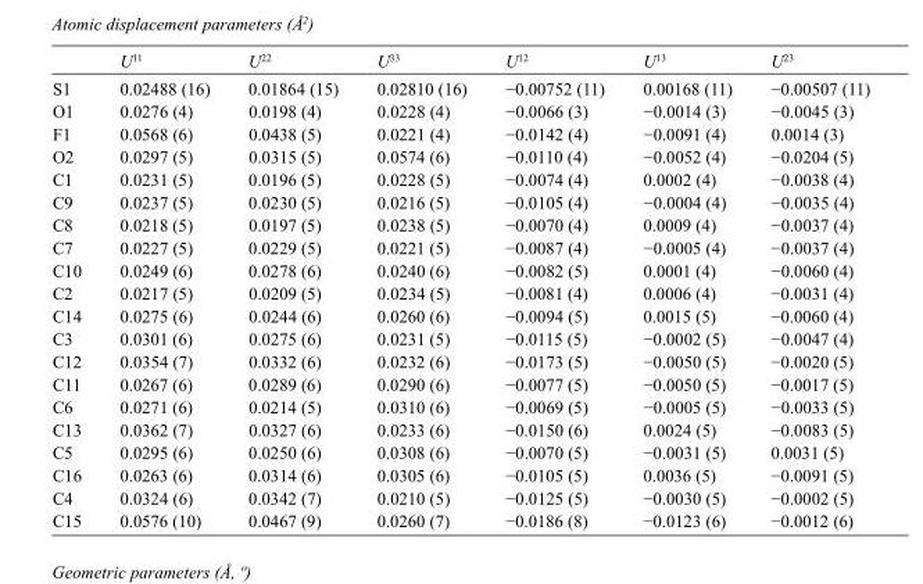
<table><thead><tr><td></td><td>U<sup>11</sup></td><td>U<sup>22</sup></td><td>U<sup>33</sup></td><td>U<sup>12</sup></td><td>U<sup>13</sup></td><td>U<sup>23</sup></td></tr></thead><tbody><tr><td>S1</td><td>0.02488 (16)</td><td>0.01864 (15)</td><td>0.02810 (16)</td><td>−0.00752 (11)</td><td>0.00168 (11)</td><td>−0.00507 (11)</td></tr><tr><td>O1</td><td>0.0276 (4)</td><td>0.0198 (4)</td><td>0.0228 (4)</td><td>−0.0066 (3)</td><td>−0.0014 (3)</td><td>−0.0045 (3)</td></tr><tr><td>F1</td><td>0.0568 (6)</td><td>0.0438 (5)</td><td>0.0221 (4)</td><td>−0.0142 (4)</td><td>−0.0091 (4)</td><td>0.0014 (3)</td></tr><tr><td>O2</td><td>0.0297 (5)</td><td>0.0315 (5)</td><td>0.0574 (6)</td><td>−0.0110 (4)</td><td>−0.0052 (4)</td><td>−0.0204 (5)</td></tr><tr><td>C1</td><td>0.0231 (5)</td><td>0.0196 (5)</td><td>0.0228 (5)</td><td>−0.0074 (4)</td><td>0.0002 (4)</td><td>−0.0038 (4)</td></tr><tr><td>C9</td><td>0.0237 (5)</td><td>0.0230 (5)</td><td>0.0216 (5)</td><td>−0.0105 (4)</td><td>−0.0004 (4)</td><td>−0.0035 (4)</td></tr><tr><td>C8</td><td>0.0218 (5)</td><td>0.0197 (5)</td><td>0.0238 (5)</td><td>−0.0070 (4)</td><td>0.0009 (4)</td><td>−0.0037 (4)</td></tr><tr><td>C7</td><td>0.0227 (5)</td><td>0.0229 (5)</td><td>0.0221 (5)</td><td>−0.0087 (4)</td><td>−0.0005 (4)</td><td>−0.0037 (4)</td></tr><tr><td>C10</td><td>0.0249 (6)</td><td>0.0278 (6)</td><td>0.0240 (6)</td><td>−0.0082 (5)</td><td>0.0001 (4)</td><td>−0.0060 (4)</td></tr><tr><td>C2</td><td>0.0217 (5)</td><td>0.0209 (5)</td><td>0.0234 (5)</td><td>−0.0081 (4)</td><td>0.0006 (4)</td><td>−0.0031 (4)</td></tr><tr><td>C14</td><td>0.0275 (6)</td><td>0.0244 (6)</td><td>0.0260 (6)</td><td>−0.0094 (5)</td><td>0.0015 (5)</td><td>−0.0060 (4)</td></tr><tr><td>C3</td><td>0.0301 (6)</td><td>0.0275 (6)</td><td>0.0231 (5)</td><td>−0.0115 (5)</td><td>−0.0002 (5)</td><td>−0.0047 (4)</td></tr><tr><td>C12</td><td>0.0354 (7)</td><td>0.0332 (6)</td><td>0.0232 (6)</td><td>−0.0173 (5)</td><td>−0.0050 (5)</td><td>−0.0020 (5)</td></tr><tr><td>C11</td><td>0.0267 (6)</td><td>0.0289 (6)</td><td>0.0290 (6)</td><td>−0.0077 (5)</td><td>−0.0050 (5)</td><td>−0.0017 (5)</td></tr><tr><td>C6</td><td>0.0271 (6)</td><td>0.0214 (5)</td><td>0.0310 (6)</td><td>−0.0069 (5)</td><td>−0.0005 (5)</td><td>−0.0033 (5)</td></tr><tr><td>C13</td><td>0.0362 (7)</td><td>0.0327 (6)</td><td>0.0233 (6)</td><td>−0.0150 (6)</td><td>0.0024 (5)</td><td>−0.0083 (5)</td></tr><tr><td>C5</td><td>0.0295 (6)</td><td>0.0250 (6)</td><td>0.0308 (6)</td><td>−0.0070 (5)</td><td>−0.0031 (5)</td><td>0.0031 (5)</td></tr><tr><td>C16</td><td>0.0263 (6)</td><td>0.0314 (6)</td><td>0.0305 (6)</td><td>−0.0105 (5)</td><td>0.0036 (5)</td><td>−0.0091 (5)</td></tr><tr><td>C4</td><td>0.0324 (6)</td><td>0.0342 (7)</td><td>0.0210 (5)</td><td>−0.0125 (5)</td><td>−0.0030 (5)</td><td>−0.0002 (5)</td></tr><tr><td>C15</td><td>0.0576 (10)</td><td>0.0467 (9)</td><td>0.0260 (7)</td><td>−0.0186 (8)</td><td>−0.0123 (6)</td><td>−0.0012 (6)</td></tr></tbody></table>